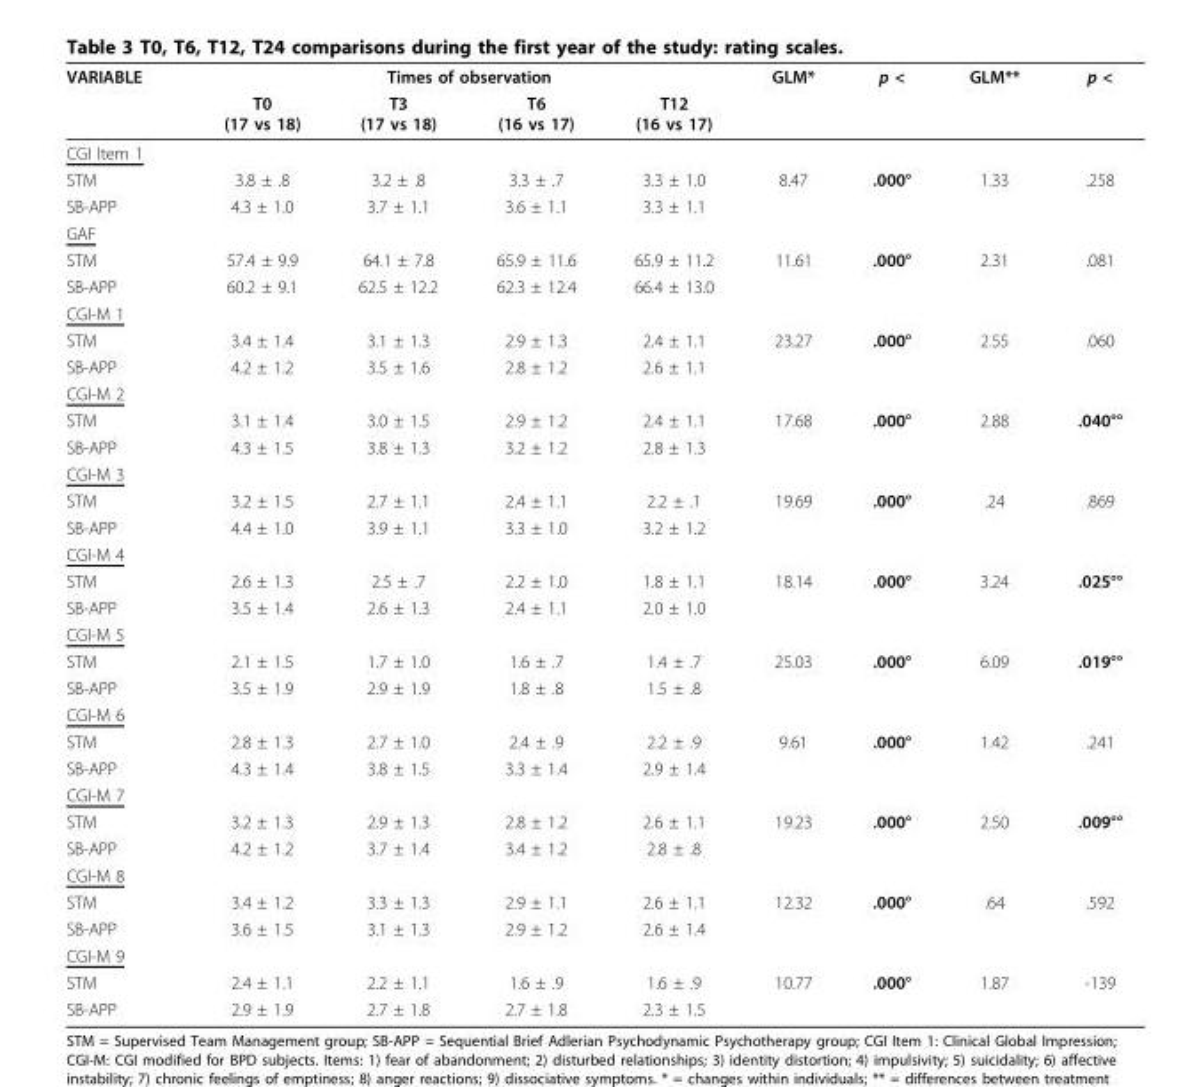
<table><thead><tr><td rowspan="2">VARIABLE</td><td colspan="4">Times of observation</td><td rowspan="2">GLM*</td><td rowspan="2">p &lt;</td><td rowspan="2">GLM**</td><td rowspan="2">p &lt;</td></tr><tr><td>T0 (17 vs 18)</td><td>T3 (17 vs 18)</td><td>T6 (16 vs 17)</td><td>T12 (16 vs 17)</td></tr></thead><tbody><tr><td colspan="9">CGI Item 1</td></tr><tr><td>STM</td><td>3.8 ± .8</td><td>3.2 ± .8</td><td>3.3 ± .7</td><td>3.3 ± 1.0</td><td>8.47</td><td>.000°</td><td>1.33</td><td>.258</td></tr><tr><td>SB-APP</td><td>4.3 ± 1.0</td><td>3.7 ± 1.1</td><td>3.6 ± 1.1</td><td>3.3 ± 1.1</td><td></td><td></td><td></td><td></td></tr><tr><td colspan="9">GAF</td></tr><tr><td>STM</td><td>57.4 ± 9.9</td><td>64.1 ± 7.8</td><td>65.9 ± 11.6</td><td>65.9 ± 11.2</td><td>11.61</td><td>.000°</td><td>2.31</td><td>.081</td></tr><tr><td>SB-APP</td><td>60.2 ± 9.1</td><td>62.5 ± 12.2</td><td>62.3 ± 12.4</td><td>66.4 ± 13.0</td><td></td><td></td><td></td><td></td></tr><tr><td colspan="9">CGI-M 1</td></tr><tr><td>STM</td><td>3.4 ± 1.4</td><td>3.1 ± 1.3</td><td>2.9 ± 1.3</td><td>2.4 ± 1.1</td><td>23.27</td><td>.000°</td><td>2.55</td><td>.060</td></tr><tr><td>SB-APP</td><td>4.2 ± 1.2</td><td>3.5 ± 1.6</td><td>2.8 ± 1.2</td><td>2.6 ± 1.1</td><td></td><td></td><td></td><td></td></tr><tr><td colspan="9">CGI-M 2</td></tr><tr><td>STM</td><td>3.1 ± 1.4</td><td>3.0 ± 1.5</td><td>2.9 ± 1.2</td><td>2.4 ± 1.1</td><td>17.68</td><td>.000°</td><td>2.88</td><td>.040°°</td></tr><tr><td>SB-APP</td><td>4.3 ± 1.5</td><td>3.8 ± 1.3</td><td>3.2 ± 1.2</td><td>2.8 ± 1.3</td><td></td><td></td><td></td><td></td></tr><tr><td colspan="9">CGI-M 3</td></tr><tr><td>STM</td><td>3.2 ± 1.5</td><td>2.7 ± 1.1</td><td>2.4 ± 1.1</td><td>2.2 ± .1</td><td>19.69</td><td>.000°</td><td>.24</td><td>.869</td></tr><tr><td>SB-APP</td><td>4.4 ± 1.0</td><td>3.9 ± 1.1</td><td>3.3 ± 1.0</td><td>3.2 ± 1.2</td><td></td><td></td><td></td><td></td></tr><tr><td colspan="9">CGI-M 4</td></tr><tr><td>STM</td><td>2.6 ± 1.3</td><td>2.5 ± .7</td><td>2.2 ± 1.0</td><td>1.8 ± 1.1</td><td>18.14</td><td>.000°</td><td>3.24</td><td>.025°°</td></tr><tr><td>SB-APP</td><td>3.5 ± 1.4</td><td>2.6 ± 1.3</td><td>2.4 ± 1.1</td><td>2.0 ± 1.0</td><td></td><td></td><td></td><td></td></tr><tr><td colspan="9">CGI-M 5</td></tr><tr><td>STM</td><td>2.1 ± 1.5</td><td>1.7 ± 1.0</td><td>1.6 ± .7</td><td>1.4 ± .7</td><td>25.03</td><td>.000°</td><td>6.09</td><td>.019°°</td></tr><tr><td>SB-APP</td><td>3.5 ± 1.9</td><td>2.9 ± 1.9</td><td>1.8 ± .8</td><td>1.5 ± .8</td><td></td><td></td><td></td><td></td></tr><tr><td colspan="9">CGI-M 6</td></tr><tr><td>STM</td><td>2.8 ± 1.3</td><td>2.7 ± 1.0</td><td>2.4 ± .9</td><td>2.2 ± .9</td><td>9.61</td><td>.000°</td><td>1.42</td><td>.241</td></tr><tr><td>SB-APP</td><td>4.3 ± 1.4</td><td>3.8 ± 1.5</td><td>3.3 ± 1.4</td><td>2.9 ± 1.4</td><td></td><td></td><td></td><td></td></tr><tr><td colspan="9">CGI-M 7</td></tr><tr><td>STM</td><td>3.2 ± 1.3</td><td>2.9 ± 1.3</td><td>2.8 ± 1.2</td><td>2.6 ± 1.1</td><td>19.23</td><td>.000°</td><td>2.50</td><td>.009°°</td></tr><tr><td>SB-APP</td><td>4.2 ± 1.2</td><td>3.7 ± 1.4</td><td>3.4 ± 1.2</td><td>2.8 ± .8</td><td></td><td></td><td></td><td></td></tr><tr><td colspan="9">CGI-M 8</td></tr><tr><td>STM</td><td>3.4 ± 1.2</td><td>3.3 ± 1.3</td><td>2.9 ± 1.1</td><td>2.6 ± 1.1</td><td>12.32</td><td>.000°</td><td>.64</td><td>.592</td></tr><tr><td>SB-APP</td><td>3.6 ± 1.5</td><td>3.1 ± 1.3</td><td>2.9 ± 1.2</td><td>2.6 ± 1.4</td><td></td><td></td><td></td><td></td></tr><tr><td colspan="9">CGI-M 9</td></tr><tr><td>STM</td><td>2.4 ± 1.1</td><td>2.2 ± 1.1</td><td>1.6 ± .9</td><td>1.6 ± .9</td><td>10.77</td><td>.000°</td><td>1.87</td><td>-139</td></tr><tr><td>SB-APP</td><td>2.9 ± 1.9</td><td>2.7 ± 1.8</td><td>2.7 ± 1.8</td><td>2.3 ± 1.5</td><td></td><td></td><td></td><td></td></tr></tbody></table>